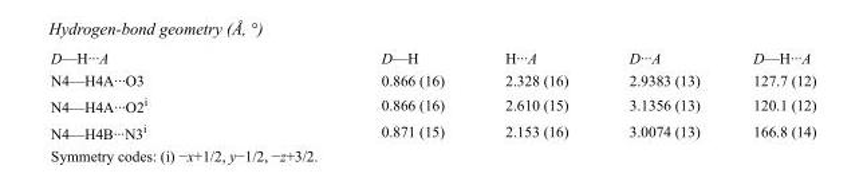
<table><tbody><tr><td>D—H···A</td><td>D—H</td><td>H···A</td><td>D···A</td><td>D—H···A</td></tr><tr><td>N4—H4A···O3</td><td>0.866 (16)</td><td>2.328 (16)</td><td>2.9383 (13)</td><td>127.7 (12)</td></tr><tr><td>N4—H4A···O2<sup>i</sup></td><td>0.866 (16)</td><td>2.610 (15)</td><td>3.1356 (13)</td><td>120.1 (12)</td></tr><tr><td>N4—H4B···N3<sup>i</sup></td><td>0.871 (15)</td><td>2.153 (16)</td><td>3.0074 (13)</td><td>166.8 (14)</td></tr></tbody></table>